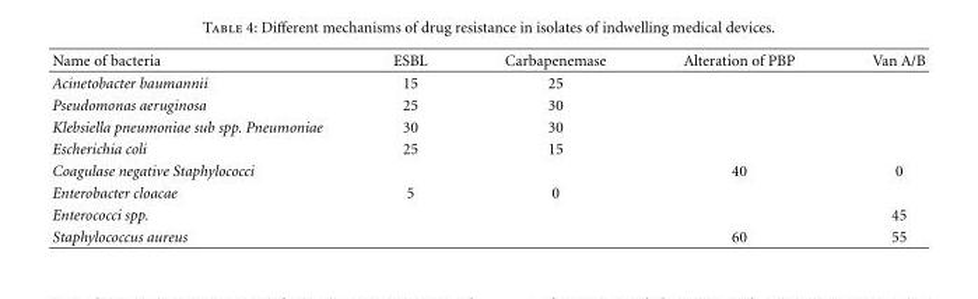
<table><thead><tr><td>Name of bacteria</td><td>ESBL</td><td>Carbapenemase</td><td>Alteration of PBP</td><td>Van A/B</td></tr></thead><tbody><tr><td>Acinetobacter baumannii</td><td>15</td><td>25</td><td></td><td></td></tr><tr><td>Pseudomonas aeruginosa</td><td>25</td><td>30</td><td></td><td></td></tr><tr><td>Klebsiella pneumoniae sub spp. Pneumoniae</td><td>30</td><td>30</td><td></td><td></td></tr><tr><td>Escherichia coli</td><td>25</td><td>15</td><td></td><td></td></tr><tr><td>Coagulase negative Staphylococci</td><td></td><td></td><td>40</td><td>0</td></tr><tr><td>Enterobacter cloacae</td><td>5</td><td>0</td><td></td><td></td></tr><tr><td>Enterococci spp.</td><td></td><td></td><td></td><td>45</td></tr><tr><td>Staphylococcus aureus</td><td></td><td></td><td>60</td><td>55</td></tr></tbody></table>